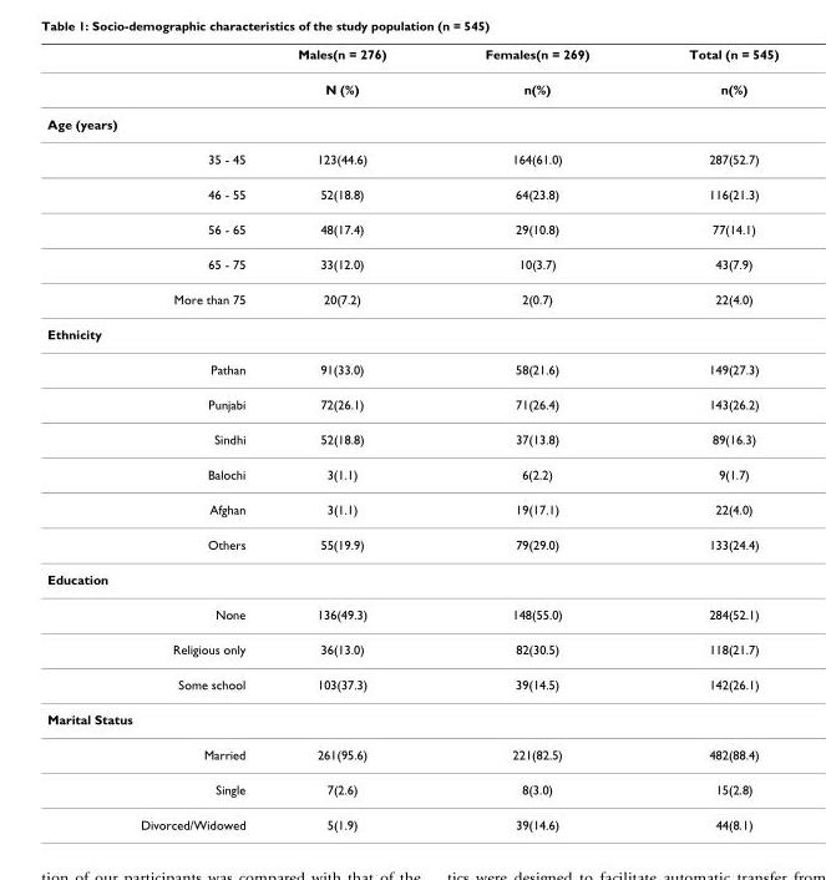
<table><thead><tr><td></td><td>Males(n = 276)</td><td>Females(n = 269)</td><td>Total (n = 545)</td></tr></thead><tbody><tr><td></td><td>N (%)</td><td>n(%)</td><td>n(%)</td></tr><tr><td colspan="4">Age (years)</td></tr><tr><td>35 - 45</td><td>123(44.6)</td><td>164(61.0)</td><td>287(52.7)</td></tr><tr><td>46 - 55</td><td>52(18.8)</td><td>64(23.8)</td><td>116(21.3)</td></tr><tr><td>56 - 65</td><td>48(17.4)</td><td>29(10.8)</td><td>77(14.1)</td></tr><tr><td>65 - 75</td><td>33(12.0)</td><td>10(3.7)</td><td>43(7.9)</td></tr><tr><td>More than 75</td><td>20(7.2)</td><td>2(0.7)</td><td>22(4.0)</td></tr><tr><td colspan="4">Ethnicity</td></tr><tr><td>Pathan</td><td>91(33.0)</td><td>58(21.6)</td><td>149(27.3)</td></tr><tr><td>Punjabi</td><td>72(26.1)</td><td>71(26.4)</td><td>143(26.2)</td></tr><tr><td>Sindhi</td><td>52(18.8)</td><td>37(13.8)</td><td>89(16.3)</td></tr><tr><td>Balochi</td><td>3(1.1)</td><td>6(2.2)</td><td>9(1.7)</td></tr><tr><td>Afghan</td><td>3(1.1)</td><td>19(17.1)</td><td>22(4.0)</td></tr><tr><td>Others</td><td>55(19.9)</td><td>79(29.0)</td><td>133(24.4)</td></tr><tr><td colspan="4">Education</td></tr><tr><td>None</td><td>136(49.3)</td><td>148(55.0)</td><td>284(52.1)</td></tr><tr><td>Religious only</td><td>36(13.0)</td><td>82(30.5)</td><td>118(21.7)</td></tr><tr><td>Some school</td><td>103(37.3)</td><td>39(14.5)</td><td>142(26.1)</td></tr><tr><td colspan="4">Marital Status</td></tr><tr><td>Married</td><td>261(95.6)</td><td>221(82.5)</td><td>482(88.4)</td></tr><tr><td>Single</td><td>7(2.6)</td><td>8(3.0)</td><td>15(2.8)</td></tr><tr><td>Divorced/Widowed</td><td>5(1.9)</td><td>39(14.6)</td><td>44(8.1)</td></tr></tbody></table>